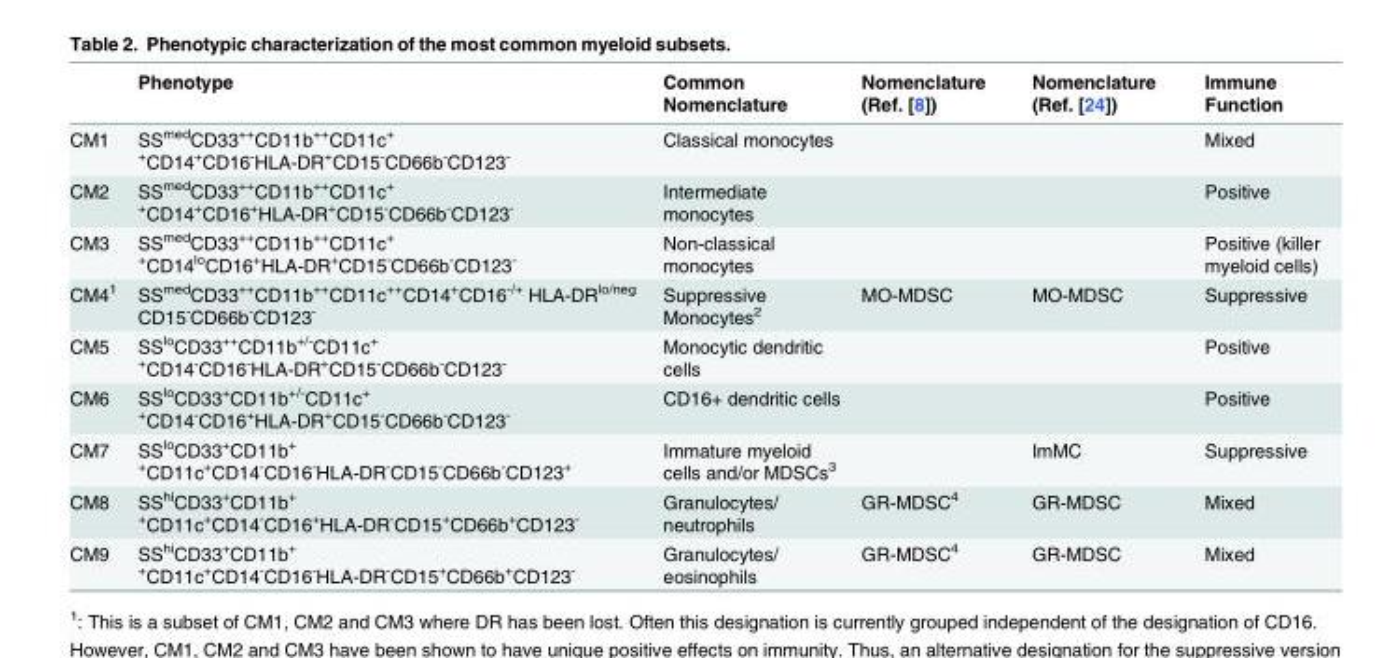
<table><thead><tr><td></td><td>Phenotype</td><td>Common Nomenclature</td><td>Nomenclature (Ref. [8])</td><td>Nomenclature (Ref. [24])</td><td>Immune Function</td></tr></thead><tbody><tr><td>CM1</td><td>SS<sup>med</sup>CD33<sup>++</sup>CD11b<sup>++</sup>CD11c<sup>+ +</sup>CD14<sup>+</sup>CD16<sup>-</sup>HLA-DR<sup>+</sup>CD15<sup>-</sup>CD66b<sup>-</sup>CD123<sup>-</sup></td><td>Classical monocytes</td><td></td><td></td><td>Mixed</td></tr><tr><td>CM2</td><td>SS<sup>med</sup>CD33<sup>++</sup>CD11b<sup>++</sup>CD11c<sup>+ +</sup>CD14<sup>+</sup>CD16<sup>+</sup>HLA-DR<sup>+</sup>CD15<sup>-</sup>CD66b<sup>-</sup>CD123<sup>-</sup></td><td>Intermediate monocytes</td><td></td><td></td><td>Positive</td></tr><tr><td>CM3</td><td>SS<sup>med</sup>CD33<sup>++</sup>CD11b<sup>++</sup>CD11c<sup>+ +</sup>CD14<sup>lo</sup>CD16<sup>+</sup>HLA-DR<sup>+</sup>CD15<sup>-</sup>CD66b<sup>-</sup>CD123<sup>-</sup></td><td>Non-classical monocytes</td><td></td><td></td><td>Positive (killer myeloid cells)</td></tr><tr><td>CM4<sup>1</sup></td><td>SS<sup>med</sup>CD33<sup>++</sup>CD11b<sup>++</sup>CD11c<sup>++</sup>CD14<sup>+</sup>CD16<sup>-/+</sup> HLA-DR<sup>lo/neg</sup> CD15<sup>-</sup>CD66b<sup>-</sup>CD123<sup>-</sup></td><td>Suppressive Monocytes<sup>2</sup></td><td>MO-MDSC</td><td>MO-MDSC</td><td>Suppressive</td></tr><tr><td>CM5</td><td>SS<sup>lo</sup>CD33<sup>++</sup>CD11b<sup>+/-</sup>CD11c<sup>+ +</sup>CD14<sup>-</sup>CD16<sup>-</sup>HLA-DR<sup>+</sup>CD15<sup>-</sup>CD66b<sup>-</sup>CD123<sup>-</sup></td><td>Monocytic dendritic cells</td><td></td><td></td><td>Positive</td></tr><tr><td>CM6</td><td>SS<sup>lo</sup>CD33<sup>+</sup>CD11b<sup>+/-</sup>CD11c<sup>+ +</sup>CD14<sup>-</sup>CD16<sup>+</sup>HLA-DR<sup>+</sup>CD15<sup>-</sup>CD66b<sup>-</sup>CD123<sup>-</sup></td><td>CD16+ dendritic cells</td><td></td><td></td><td>Positive</td></tr><tr><td>CM7</td><td>SS<sup>lo</sup>CD33<sup>+</sup>CD11b<sup>+ +</sup>CD11c<sup>+</sup>CD14<sup>-</sup>CD16<sup>-</sup>HLA-DR<sup>-</sup>CD15<sup>-</sup>CD66b<sup>-</sup>CD123<sup>+</sup></td><td>Immature myeloid cells and/or MDSCs<sup>3</sup></td><td></td><td>ImMC</td><td>Suppressive</td></tr><tr><td>CM8</td><td>SS<sup>hi</sup>CD33<sup>+</sup>CD11b<sup>+ +</sup>CD11c<sup>+</sup>CD14<sup>-</sup>CD16<sup>+</sup>HLA-DR<sup>-</sup>CD15<sup>+</sup>CD66b<sup>+</sup>CD123<sup>-</sup></td><td>Granulocytes/ neutrophils</td><td>GR-MDSC<sup>4</sup></td><td>GR-MDSC</td><td>Mixed</td></tr><tr><td>CM9</td><td>SS<sup>hi</sup>CD33<sup>+</sup>CD11b<sup>+ +</sup>CD11c<sup>+</sup>CD14<sup>-</sup>CD16<sup>-</sup>HLA-DR<sup>-</sup>CD15<sup>+</sup>CD66b<sup>+</sup>CD123<sup>-</sup></td><td>Granulocytes/ eosinophils</td><td>GR-MDSC<sup>4</sup></td><td>GR-MDSC</td><td>Mixed</td></tr></tbody></table>